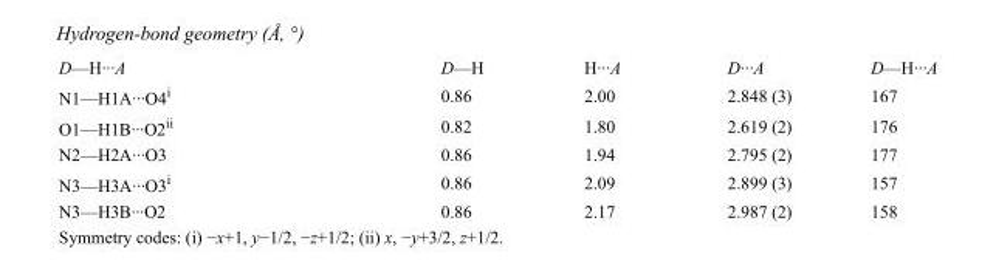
<table><tbody><tr><td>D—H···A</td><td>D—H</td><td>H···A</td><td>D···A</td><td>D—H···A</td></tr><tr><td>N1—H1A···O4<sup>i</sup></td><td>0.86</td><td>2.00</td><td>2.848 (3)</td><td>167</td></tr><tr><td>O1—H1B···O2<sup>ii</sup></td><td>0.82</td><td>1.80</td><td>2.619 (2)</td><td>176</td></tr><tr><td>N2—H2A···O3</td><td>0.86</td><td>1.94</td><td>2.795 (2)</td><td>177</td></tr><tr><td>N3—H3A···O3<sup>i</sup></td><td>0.86</td><td>2.09</td><td>2.899 (3)</td><td>157</td></tr><tr><td>N3—H3B···O2</td><td>0.86</td><td>2.17</td><td>2.987 (2)</td><td>158</td></tr></tbody></table>